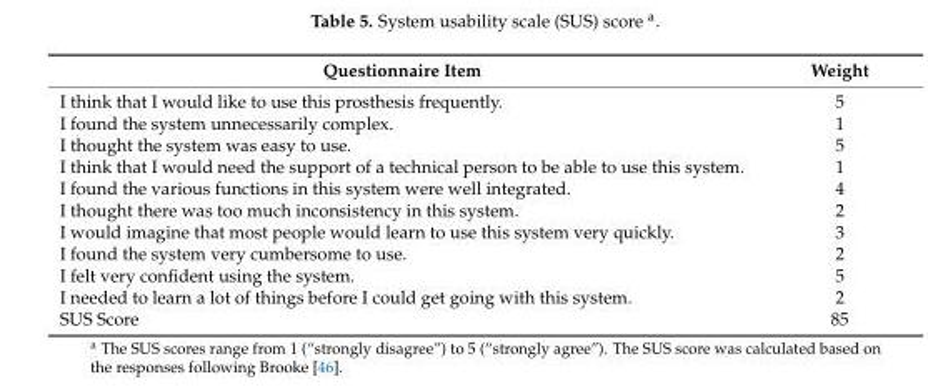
<table><thead><tr><td>Questionnaire Item</td><td>Weight</td></tr></thead><tbody><tr><td>I think that I would like to use this prosthesis frequently.</td><td>5</td></tr><tr><td>I found the system unnecessarily complex.</td><td>1</td></tr><tr><td>I thought the system was easy to use.</td><td>5</td></tr><tr><td>I think that I would need the support of a technical person to be able to use this system.</td><td>1</td></tr><tr><td>I found the various functions in this system were well integrated.</td><td>4</td></tr><tr><td>I thought there was too much inconsistency in this system.</td><td>2</td></tr><tr><td>I would imagine that most people would learn to use this system very quickly.</td><td>3</td></tr><tr><td>I found the system very cumbersome to use.</td><td>2</td></tr><tr><td>I felt very confident using the system.</td><td>5</td></tr><tr><td>I needed to learn a lot of things before I could get going with this system.</td><td>2</td></tr><tr><td>SUS Score</td><td>85</td></tr></tbody></table>